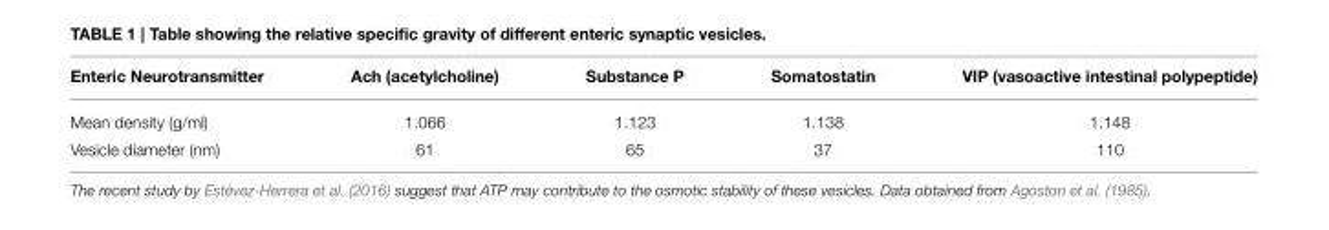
<table><thead><tr><td>Enteric Neurotransmitter</td><td>Ach (acetylcholine)</td><td>Substance P</td><td>Somatostatin</td><td>VIP (vasoactive intestinal polypeptide)</td></tr></thead><tbody><tr><td>Mean density (g/ml)</td><td>1.066</td><td>1.123</td><td>1.138</td><td>1.148</td></tr><tr><td>Vesicle diameter (nm)</td><td>61</td><td>65</td><td>37</td><td>110</td></tr></tbody></table>